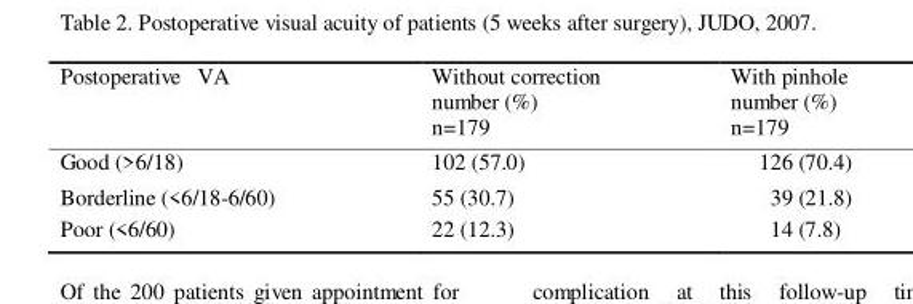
<table><thead><tr><td>Postoperative VA</td><td>Without correction number (%) n=179</td><td>With pinhole number (%) n=179</td></tr></thead><tbody><tr><td>Good (&gt;6/18)</td><td>102 (57.0)</td><td>126 (70.4)</td></tr><tr><td>Borderline (&lt;6/18-6/60)</td><td>55 (30.7)</td><td>39 (21.8)</td></tr><tr><td>Poor (&lt;6/60)</td><td>22 (12.3)</td><td>14 (7.8)</td></tr></tbody></table>